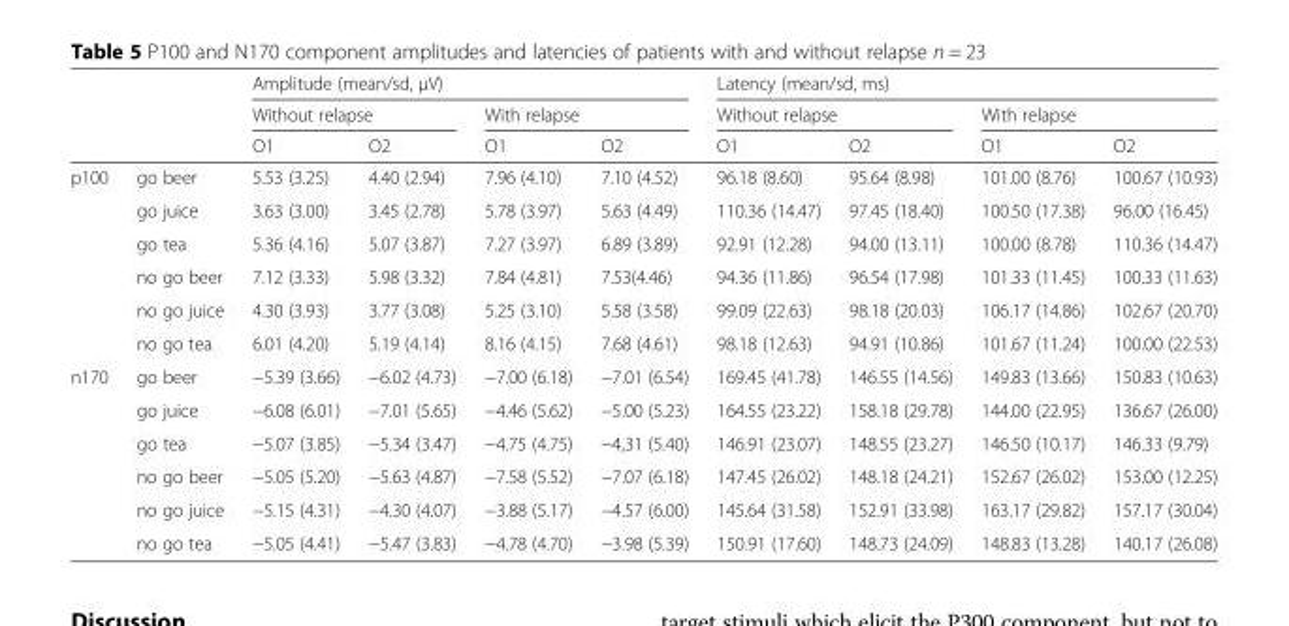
<table><thead><tr><td rowspan="3"></td><td rowspan="3"></td><td colspan="4">Amplitude (mean/sd, μV)</td><td colspan="4">Latency (mean/sd, ms)</td></tr><tr><td colspan="2">Without relapse</td><td colspan="2">With relapse</td><td colspan="2">Without relapse</td><td colspan="2">With relapse</td></tr><tr><td>O1</td><td>O2</td><td>O1</td><td>O2</td><td>O1</td><td>O2</td><td>O1</td><td>O2</td></tr></thead><tbody><tr><td rowspan="6">p100</td><td>go beer</td><td>5.53 (3.25)</td><td>4.40 (2.94)</td><td>7.96 (4.10)</td><td>7.10 (4.52)</td><td>96.18 (8.60)</td><td>95.64 (8.98)</td><td>101.00 (8.76)</td><td>100.67 (10.93)</td></tr><tr><td>go juice</td><td>3.63 (3.00)</td><td>3.45 (2.78)</td><td>5.78 (3.97)</td><td>5.63 (4.49)</td><td>110.36 (14.47)</td><td>97.45 (18.40)</td><td>100.50 (17.38)</td><td>96.00 (16.45)</td></tr><tr><td>go tea</td><td>5.36 (4.16)</td><td>5.07 (3.87)</td><td>7.27 (3.97)</td><td>6.89 (3.89)</td><td>92.91 (12.28)</td><td>94.00 (13.11)</td><td>100.00 (8.78)</td><td>110.36 (14.47)</td></tr><tr><td>no go beer</td><td>7.12 (3.33)</td><td>5.98 (3.32)</td><td>7.84 (4.81)</td><td>7.53(4.46)</td><td>94.36 (11.86)</td><td>96.54 (17.98)</td><td>101.33 (11.45)</td><td>100.33 (11.63)</td></tr><tr><td>no go juice</td><td>4.30 (3.93)</td><td>3.77 (3.08)</td><td>5.25 (3.10)</td><td>5.58 (3.58)</td><td>99.09 (22.63)</td><td>98.18 (20.03)</td><td>106.17 (14.86)</td><td>102.67 (20.70)</td></tr><tr><td>no go tea</td><td>6.01 (4.20)</td><td>5.19 (4.14)</td><td>8.16 (4.15)</td><td>7.68 (4.61)</td><td>98.18 (12.63)</td><td>94.91 (10.86)</td><td>101.67 (11.24)</td><td>100.00 (22.53)</td></tr><tr><td rowspan="6">n170</td><td>go beer</td><td>−5.39 (3.66)</td><td>−6.02 (4.73)</td><td>−7.00 (6.18)</td><td>−7.01 (6.54)</td><td>169.45 (41.78)</td><td>146.55 (14.56)</td><td>149.83 (13.66)</td><td>150.83 (10.63)</td></tr><tr><td>go juice</td><td>−6.08 (6.01)</td><td>−7.01 (5.65)</td><td>−4.46 (5.62)</td><td>−5.00 (5.23)</td><td>164.55 (23.22)</td><td>158.18 (29.78)</td><td>144.00 (22.95)</td><td>136.67 (26.00)</td></tr><tr><td>go tea</td><td>−5.07 (3.85)</td><td>−5.34 (3.47)</td><td>−4.75 (4.75)</td><td>−4,31 (5.40)</td><td>146.91 (23.07)</td><td>148.55 (23.27)</td><td>146.50 (10.17)</td><td>146.33 (9.79)</td></tr><tr><td>no go beer</td><td>−5.05 (5.20)</td><td>−5.63 (4.87)</td><td>−7.58 (5.52)</td><td>−7.07 (6.18)</td><td>147.45 (26.02)</td><td>148.18 (24.21)</td><td>152.67 (26.02)</td><td>153.00 (12.25)</td></tr><tr><td>no go juice</td><td>−5.15 (4.31)</td><td>−4.30 (4.07)</td><td>−3.88 (5.17)</td><td>−4.57 (6.00)</td><td>145.64 (31.58)</td><td>152.91 (33.98)</td><td>163.17 (29.82)</td><td>157.17 (30.04)</td></tr><tr><td>no go tea</td><td>−5.05 (4.41)</td><td>−5.47 (3.83)</td><td>−4.78 (4.70)</td><td>−3.98 (5.39)</td><td>150.91 (17.60)</td><td>148.73 (24.09)</td><td>148.83 (13.28)</td><td>140.17 (26.08)</td></tr></tbody></table>